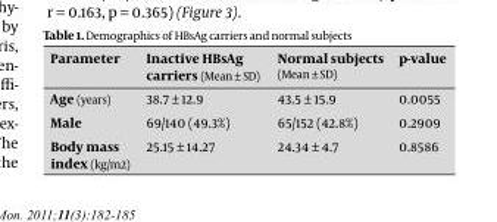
<table><thead><tr><td>Parameter</td><td>Inactive HBsAg carriers (Mean ± SD)</td><td>Normal subjects (Mean ± SD)</td><td>p-value</td></tr></thead><tbody><tr><td>Age (years)</td><td>38.7 ± 12.9</td><td>43.5 ± 15.9</td><td>0.0055</td></tr><tr><td>Male</td><td>69/140 (49.3%)</td><td>65/152 (42.8%)</td><td>0.2909</td></tr><tr><td>Body mass index (kg/m2)</td><td>25.15 ± 14.27</td><td>24.34 ± 4.7</td><td>0.8586</td></tr></tbody></table>